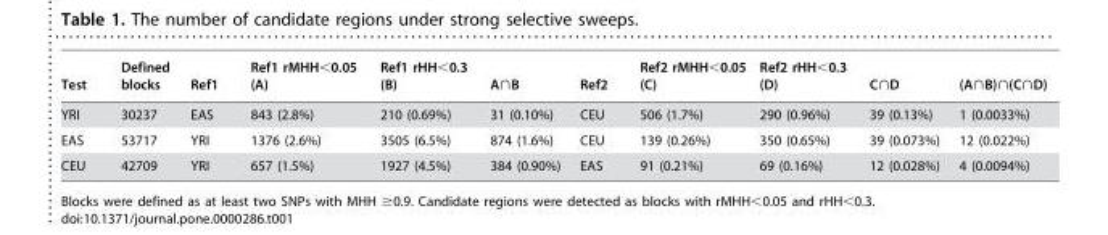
<table><thead><tr><td>Test</td><td>Defined blocks</td><td>Ref1</td><td>Ref1 rMHH&lt;0.05 (A)</td><td>Ref1 rHH&lt;0.3 (B)</td><td>A&gt;B</td><td>Ref2</td><td>Ref2 rMHH&lt;0.05 (C)</td><td>Ref2 rHH&lt;0.3 (D)</td><td>C&gt;D</td><td>(A&gt;B)&gt;(C&gt;D)</td></tr></thead><tbody><tr><td>YRI</td><td>30237</td><td>EAS</td><td>843 (2.8%)</td><td>210 (0.69%)</td><td>31 (0.10%)</td><td>CEU</td><td>506 (1.7%)</td><td>290 (0.96%)</td><td>39 (0.13%)</td><td>1 (0.0033%)</td></tr><tr><td>EAS</td><td>53717</td><td>YRI</td><td>1376 (2.6%)</td><td>3505 (6.5%)</td><td>874 (1.6%)</td><td>CEU</td><td>139 (0.26%)</td><td>350 (0.65%)</td><td>39 (0.073%)</td><td>12 (0.022%)</td></tr><tr><td>CEU</td><td>42709</td><td>YRI</td><td>657 (1.5%)</td><td>1927 (4.5%)</td><td>384 (0.90%)</td><td>EAS</td><td>91 (0.21%)</td><td>69 (0.16%)</td><td>12 (0.028%)</td><td>4 (0.0094%)</td></tr></tbody></table>